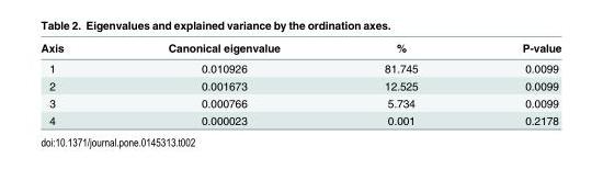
<table><thead><tr><td>Axis</td><td>Canonical eigenvalue</td><td>%</td><td>P-value</td></tr></thead><tbody><tr><td>1</td><td>0.010926</td><td>81.745</td><td>0.0099</td></tr><tr><td>2</td><td>0.001673</td><td>12.525</td><td>0.0099</td></tr><tr><td>3</td><td>0.000766</td><td>5.734</td><td>0.0099</td></tr><tr><td>4</td><td>0.000023</td><td>0.001</td><td>0.2178</td></tr></tbody></table>